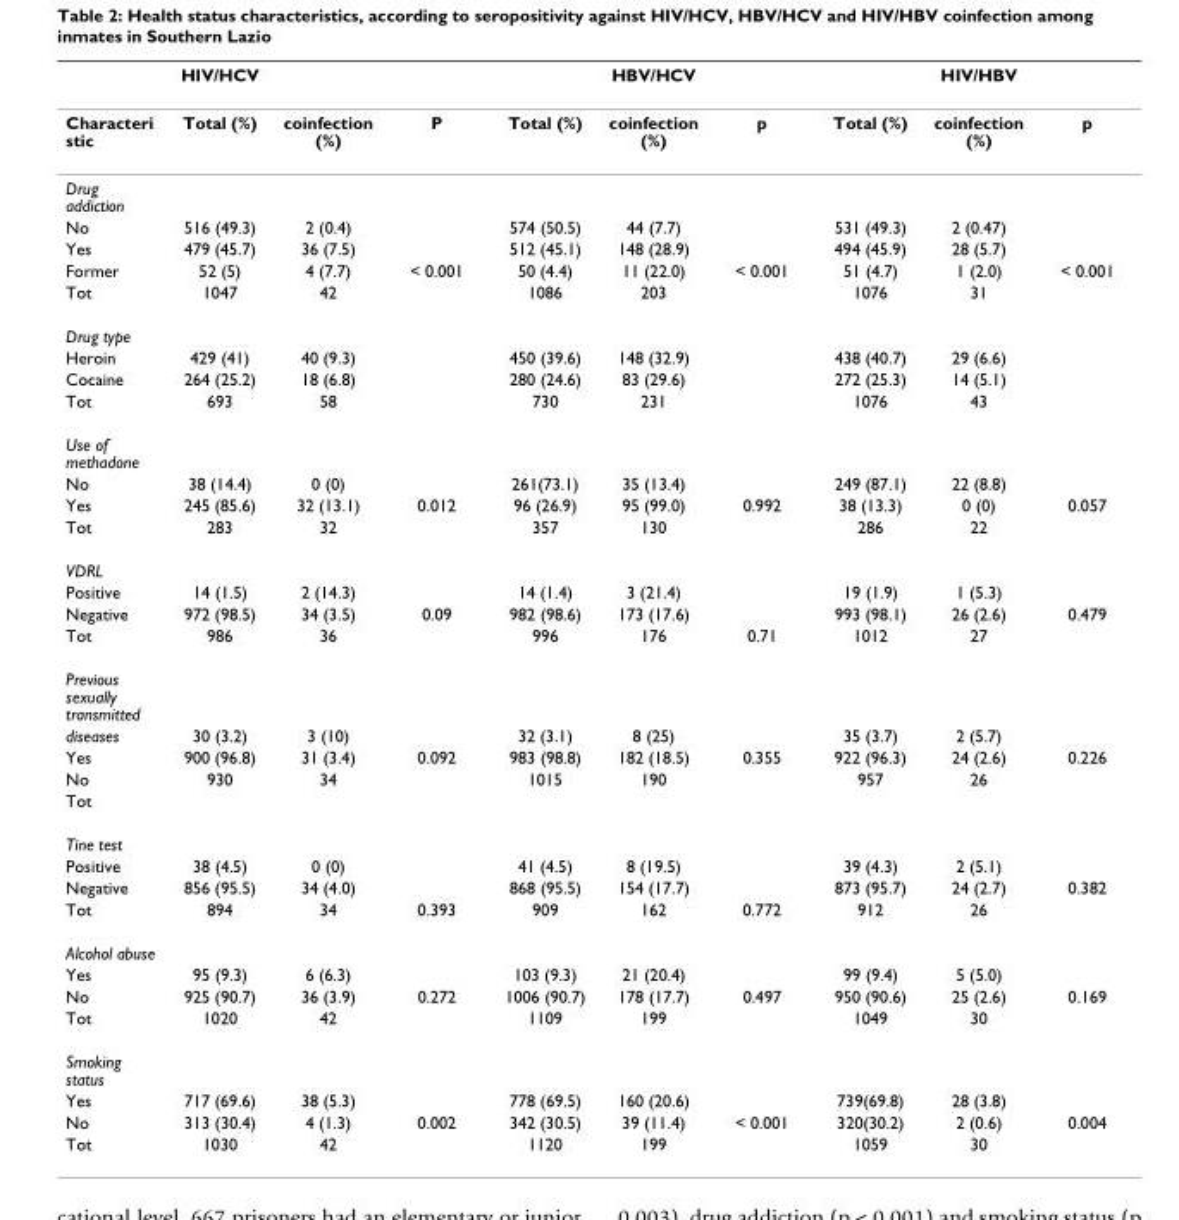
<table><thead><tr><td></td><td>HIV/HCV</td><td></td><td></td><td></td><td>HBV/HCV</td><td></td><td></td><td>HIV/HBV</td><td></td></tr></thead><tbody><tr><td>Characteri stic</td><td>Total (%)</td><td>coinfection (%)</td><td>P</td><td>Total (%)</td><td>coinfection (%)</td><td>p</td><td>Total (%)</td><td>coinfection (%)</td><td>p</td></tr><tr><td colspan="10">Drug addiction</td></tr><tr><td>No</td><td>516 (49.3)</td><td>2 (0.4)</td><td></td><td>574 (50.5)</td><td>44 (7.7)</td><td></td><td>531 (49.3)</td><td>2 (0.47)</td><td></td></tr><tr><td>Yes</td><td>479 (45.7)</td><td>36 (7.5)</td><td></td><td>512 (45.1)</td><td>148 (28.9)</td><td></td><td>494 (45.9)</td><td>28 (5.7)</td><td></td></tr><tr><td>Former</td><td>52 (5)</td><td>4 (7.7)</td><td>&lt; 0.001</td><td>50 (4.4)</td><td>11 (22.0)</td><td>&lt; 0.001</td><td>51 (4.7)</td><td>1 (2.0)</td><td>&lt; 0.001</td></tr><tr><td>Tot</td><td>1047</td><td>42</td><td></td><td>1086</td><td>203</td><td></td><td>1076</td><td>31</td><td></td></tr><tr><td colspan="10">Drug type</td></tr><tr><td>Heroin</td><td>429 (41)</td><td>40 (9.3)</td><td></td><td>450 (39.6)</td><td>148 (32.9)</td><td></td><td>438 (40.7)</td><td>29 (6.6)</td><td></td></tr><tr><td>Cocaine</td><td>264 (25.2)</td><td>18 (6.8)</td><td></td><td>280 (24.6)</td><td>83 (29.6)</td><td></td><td>272 (25.3)</td><td>14 (5.1)</td><td></td></tr><tr><td>Tot</td><td>693</td><td>58</td><td></td><td>730</td><td>231</td><td></td><td>1076</td><td>43</td><td></td></tr><tr><td colspan="10">Use of methadone</td></tr><tr><td>No</td><td>38 (14.4)</td><td>0 (0)</td><td></td><td>261(73.1)</td><td>35 (13.4)</td><td></td><td>249 (87.1)</td><td>22 (8.8)</td><td></td></tr><tr><td>Yes</td><td>245 (85.6)</td><td>32 (13.1)</td><td>0.012</td><td>96 (26.9)</td><td>95 (99.0)</td><td>0.992</td><td>38 (13.3)</td><td>0 (0)</td><td>0.057</td></tr><tr><td>Tot</td><td>283</td><td>32</td><td></td><td>357</td><td>130</td><td></td><td>286</td><td>22</td><td></td></tr><tr><td colspan="10">VDRL</td></tr><tr><td>Positive</td><td>14 (1.5)</td><td>2 (14.3)</td><td></td><td>14 (1.4)</td><td>3 (21.4)</td><td></td><td>19 (1.9)</td><td>1 (5.3)</td><td></td></tr><tr><td>Negative</td><td>972 (98.5)</td><td>34 (3.5)</td><td>0.09</td><td>982 (98.6)</td><td>173 (17.6)</td><td></td><td>993 (98.1)</td><td>26 (2.6)</td><td>0.479</td></tr><tr><td>Tot</td><td>986</td><td>36</td><td></td><td>996</td><td>176</td><td>0.71</td><td>1012</td><td>27</td><td></td></tr><tr><td colspan="10">Previous sexually transmitted</td></tr><tr><td>diseases</td><td>30 (3.2)</td><td>3 (10)</td><td></td><td>32 (3.1)</td><td>8 (25)</td><td></td><td>35 (3.7)</td><td>2 (5.7)</td><td></td></tr><tr><td>Yes</td><td>900 (96.8)</td><td>31 (3.4)</td><td>0.092</td><td>983 (98.8)</td><td>182 (18.5)</td><td>0.355</td><td>922 (96.3)</td><td>24 (2.6)</td><td>0.226</td></tr><tr><td>No</td><td>930</td><td>34</td><td></td><td>1015</td><td>190</td><td></td><td>957</td><td>26</td><td></td></tr><tr><td colspan="10">Tot</td></tr><tr><td colspan="10">Tine test</td></tr><tr><td>Positive</td><td>38 (4.5)</td><td>0 (0)</td><td></td><td>41 (4.5)</td><td>8 (19.5)</td><td></td><td>39 (4.3)</td><td>2 (5.1)</td><td></td></tr><tr><td>Negative</td><td>856 (95.5)</td><td>34 (4.0)</td><td></td><td>868 (95.5)</td><td>154 (17.7)</td><td></td><td>873 (95.7)</td><td>24 (2.7)</td><td>0.382</td></tr><tr><td>Tot</td><td>894</td><td>34</td><td>0.393</td><td>909</td><td>162</td><td>0.772</td><td>912</td><td>26</td><td></td></tr><tr><td colspan="10">Alcohol abuse</td></tr><tr><td>Yes</td><td>95 (9.3)</td><td>6 (6.3)</td><td></td><td>103 (9.3)</td><td>21 (20.4)</td><td></td><td>99 (9.4)</td><td>5 (5.0)</td><td></td></tr><tr><td>No</td><td>925 (90.7)</td><td>36 (3.9)</td><td>0.272</td><td>1006 (90.7)</td><td>178 (17.7)</td><td>0.497</td><td>950 (90.6)</td><td>25 (2.6)</td><td>0.169</td></tr><tr><td>Tot</td><td>1020</td><td>42</td><td></td><td>1109</td><td>199</td><td></td><td>1049</td><td>30</td><td></td></tr><tr><td colspan="10">Smoking status</td></tr><tr><td>Yes</td><td>717 (69.6)</td><td>38 (5.3)</td><td></td><td>778 (69.5)</td><td>160 (20.6)</td><td></td><td>739(69.8)</td><td>28 (3.8)</td><td></td></tr><tr><td>No</td><td>313 (30.4)</td><td>4 (1.3)</td><td>0.002</td><td>342 (30.5)</td><td>39 (11.4)</td><td>&lt; 0.001</td><td>320(30.2)</td><td>2 (0.6)</td><td>0.004</td></tr><tr><td>Tot</td><td>1030</td><td>42</td><td></td><td>1120</td><td>199</td><td></td><td>1059</td><td>30</td><td></td></tr></tbody></table>